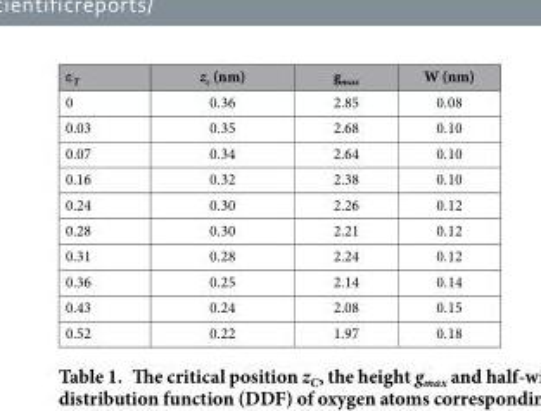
<table><thead><tr><td>ε<sub>T</sub></td><td>z<sub>c</sub> (nm)</td><td>g<sub>max</sub></td><td>W (nm)</td></tr></thead><tbody><tr><td>0</td><td>0.36</td><td>2.85</td><td>0.08</td></tr><tr><td>0.03</td><td>0.35</td><td>2.68</td><td>0.10</td></tr><tr><td>0.07</td><td>0.34</td><td>2.64</td><td>0.10</td></tr><tr><td>0.16</td><td>0.32</td><td>2.38</td><td>0.10</td></tr><tr><td>0.24</td><td>0.30</td><td>2.26</td><td>0.12</td></tr><tr><td>0.28</td><td>0.30</td><td>2.21</td><td>0.12</td></tr><tr><td>0.31</td><td>0.28</td><td>2.24</td><td>0.12</td></tr><tr><td>0.36</td><td>0.25</td><td>2.14</td><td>0.14</td></tr><tr><td>0.43</td><td>0.24</td><td>2.08</td><td>0.15</td></tr><tr><td>0.52</td><td>0.22</td><td>1.97</td><td>0.18</td></tr></tbody></table>